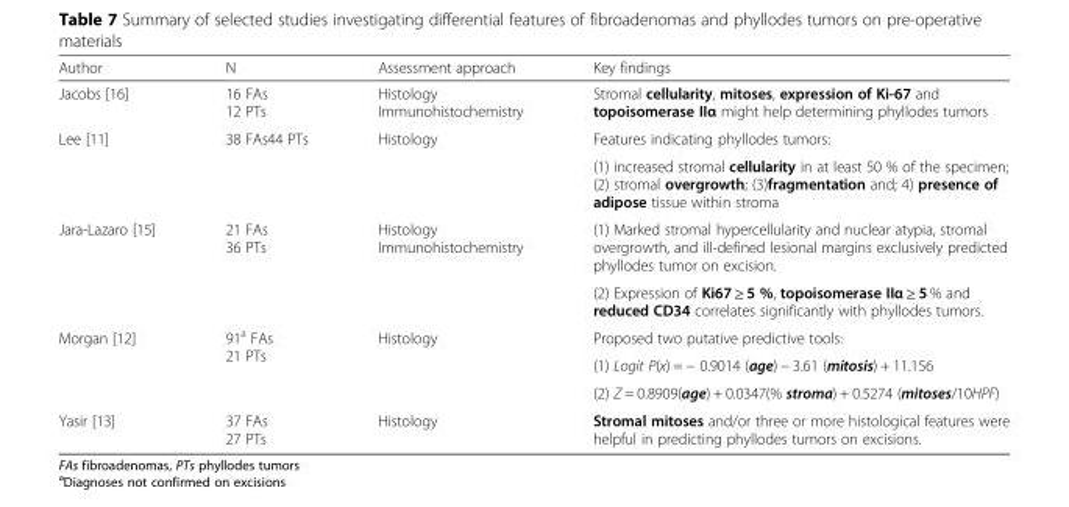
<table><thead><tr><td>Author</td><td>N</td><td>Assessment approach</td><td>Key findings</td></tr></thead><tbody><tr><td>Jacobs [16]</td><td>16 FAs 12 PTs</td><td>Histology Immunohistochemistry</td><td>Stromal cellularity, mitoses, expression of Ki-67 and topoisomerase IIα might help determining phyllodes tumors</td></tr><tr><td rowspan="2">Lee [11]</td><td rowspan="2">38 FAs44 PTs</td><td rowspan="2">Histology</td><td>Features indicating phyllodes tumors:</td></tr><tr><td>(1) increased stromal cellularity in at least 50 % of the specimen; (2) stromal overgrowth; (3)fragmentation and; 4) presence of adipose tissue within stroma</td></tr><tr><td rowspan="2">Jara-Lazaro [15]</td><td rowspan="2">21 FAs 36 PTs</td><td rowspan="2">Histology Immunohistochemistry</td><td>(1) Marked stromal hypercellularity and nuclear atypia, stromal overgrowth, and ill-defined lesional margins exclusively predicted phyllodes tumor on excision.</td></tr><tr><td>(2) Expression of Ki67 ≥ 5 %, topoisomerase IIα ≥ 5 % and reduced CD34 correlates significantly with phyllodes tumors.</td></tr><tr><td rowspan="3">Morgan [12]</td><td rowspan="3">91<sup>a</sup> FAs 21 PTs</td><td rowspan="3">Histology</td><td>Proposed two putative predictive tools:</td></tr><tr><td>(1) Logit P(x) = − 0.9014 (age) − 3.61 (mitosis) + 11.156</td></tr><tr><td>(2) Z = 0.8909(age) + 0.0347(% stroma) + 0.5274 (mitoses/10HPF)</td></tr><tr><td>Yasir [13]</td><td>37 FAs 27 PTs</td><td>Histology</td><td>Stromal mitoses and/or three or more histological features were helpful in predicting phyllodes tumors on excisions.</td></tr></tbody></table>